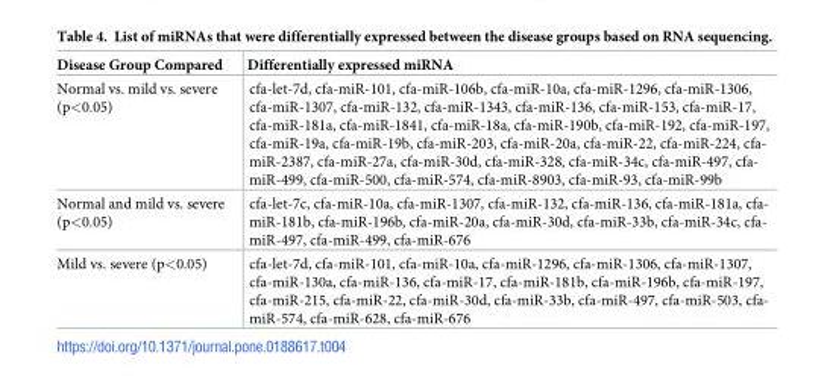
<table><thead><tr><td>Disease Group Compared</td><td>Differentially expressed miRNA</td></tr></thead><tbody><tr><td>Normal vs. mild vs. severe (p&lt;0.05)</td><td>cfa-let-7d, cfa-miR-101, cfa-miR-106b, cfa-miR-10a, cfa-miR-1296, cfa-miR-1306, cfa-miR-1307, cfa-miR-132, cfa-miR-1343, cfa-miR-136, cfa-miR-153, cfa-miR-17, cfa-miR-181a, cfa-miR-1841, cfa-miR-18a, cfa-miR-190b, cfa-miR-192, cfa-miR-197, cfa-miR-19a, cfa-miR-19b, cfa-miR-203, cfa-miR-20a, cfa-miR-22, cfa-miR-224, cfa- miR-2387, cfa-miR-27a, cfa-miR-30d, cfa-miR-328, cfa-miR-34c, cfa-miR-497, cfa- miR-499, cfa-miR-500, cfa-miR-574, cfa-miR-8903, cfa-miR-93, cfa-miR-99b</td></tr><tr><td>Normal and mild vs. severe (p&lt;0.05)</td><td>cfa-let-7c, cfa-miR-10a, cfa-miR-1307, cfa-miR-132, cfa-miR-136, cfa-miR-181a, cfa- miR-181b, cfa-miR-196b, cfa-miR-20a, cfa-miR-30d, cfa-miR-33b, cfa-miR-34c, cfa- miR-497, cfa-miR-499, cfa-miR-676</td></tr><tr><td>Mild vs. severe (p&lt;0.05)</td><td>cfa-let-7d, cfa-miR-101, cfa-miR-10a, cfa-miR-1296, cfa-miR-1306, cfa-miR-1307, cfa-miR-130a, cfa-miR-136, cfa-miR-17, cfa-miR-181b, cfa-miR-196b, cfa-miR-197, cfa-miR-215, cfa-miR-22, cfa-miR-30d, cfa-miR-33b, cfa-miR-497, cfa-miR-503, cfa- miR-574, cfa-miR-628, cfa-miR-676</td></tr></tbody></table>